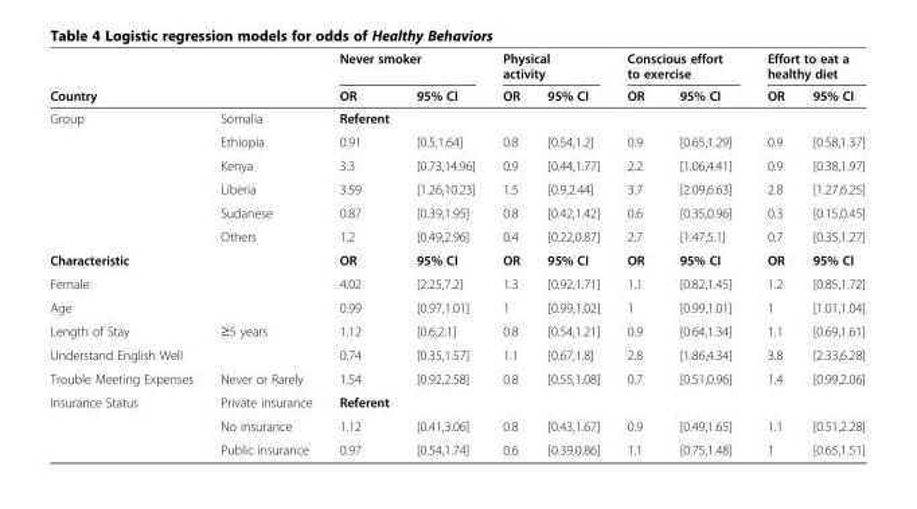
<table><thead><tr><td></td><td></td><td colspan="2">Never smoker</td><td colspan="2">Physical activity</td><td colspan="2">Conscious effort to exercise</td><td colspan="2">Effort to eat a healthy diet</td></tr><tr><td colspan="2">Country</td><td>OR</td><td>95% CI</td><td>OR</td><td>95% CI</td><td>OR</td><td>95% CI</td><td>OR</td><td>95% CI</td></tr></thead><tbody><tr><td rowspan="6">Group</td><td>Somalia</td><td>Referent</td><td></td><td></td><td></td><td></td><td></td><td></td><td></td></tr><tr><td>Ethiopia</td><td>0.91</td><td>[0.5,1.64]</td><td>0.8</td><td>[0.54,1.2]</td><td>0.9</td><td>[0.65,1.29]</td><td>0.9</td><td>[0.58,1.37]</td></tr><tr><td>Kenya</td><td>3.3</td><td>[0.73,14.96]</td><td>0.9</td><td>[0.44,1.77]</td><td>2.2</td><td>[1.06,4.41]</td><td>0.9</td><td>[0.38,1.97]</td></tr><tr><td>Liberia</td><td>3.59</td><td>[1.26,10.23]</td><td>1.5</td><td>[0.9,2.44]</td><td>3.7</td><td>[2.09,6.63]</td><td>2.8</td><td>[1.27,6.25]</td></tr><tr><td>Sudanese</td><td>0.87</td><td>[0.39,1.95]</td><td>0.8</td><td>[0.42,1.42]</td><td>0.6</td><td>[0.35,0.96]</td><td>0.3</td><td>[0.15,0.45]</td></tr><tr><td>Others</td><td>1.2</td><td>[0.49,2.96]</td><td>0.4</td><td>[0.22,0.87]</td><td>2.7</td><td>[1.47,5.1]</td><td>0.7</td><td>[0.35,1.27]</td></tr><tr><td>Characteristic</td><td></td><td>OR</td><td>95% CI</td><td>OR</td><td>95% CI</td><td>OR</td><td>95% CI</td><td>OR</td><td>95% CI</td></tr><tr><td>Female</td><td></td><td>4.02</td><td>[2.25,7.2]</td><td>1.3</td><td>[0.92,1.71]</td><td>1.1</td><td>[0.82,1.45]</td><td>1.2</td><td>[0.85,1.72]</td></tr><tr><td>Age</td><td></td><td>0.99</td><td>[0.97,1.01]</td><td>1</td><td>[0.99,1.02]</td><td>1</td><td>[0.99,1.01]</td><td>1</td><td>[1.01,1.04]</td></tr><tr><td>Length of Stay</td><td>≥5 years</td><td>1.12</td><td>[0.6,2.1]</td><td>0.8</td><td>[0.54,1.21]</td><td>0.9</td><td>[0.64,1.34]</td><td>1.1</td><td>[0.69,1.61]</td></tr><tr><td>Understand English Well</td><td></td><td>0.74</td><td>[0.35,1.57]</td><td>1.1</td><td>[0.67,1.8]</td><td>2.8</td><td>[1.86,4.34]</td><td>3.8</td><td>[2.33,6.28]</td></tr><tr><td>Trouble Meeting Expenses</td><td>Never or Rarely</td><td>1.54</td><td>[0.92,2.58]</td><td>0.8</td><td>[0.55,1.08]</td><td>0.7</td><td>[0.51,0.96]</td><td>1.4</td><td>[0.99,2.06]</td></tr><tr><td rowspan="3">Insurance Status</td><td>Private insurance</td><td>Referent</td><td></td><td></td><td></td><td></td><td></td><td></td><td></td></tr><tr><td>No insurance</td><td>1.12</td><td>[0.41,3.06]</td><td>0.8</td><td>[0.43,1.67]</td><td>0.9</td><td>[0.49,1.65]</td><td>1.1</td><td>[0.51,2.28]</td></tr><tr><td>Public insurance</td><td>0.97</td><td>[0.54,1.74]</td><td>0.6</td><td>[0.39,0.86]</td><td>1.1</td><td>[0.75,1.48]</td><td>1</td><td>[0.65,1.51]</td></tr></tbody></table>